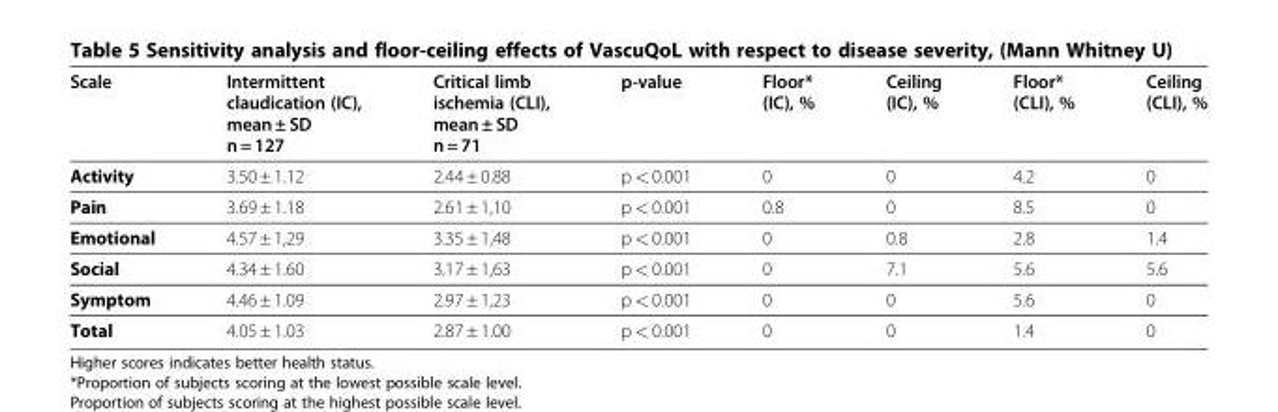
<table><thead><tr><td>Scale</td><td>Intermittent claudication (IC), mean ± SD n = 127</td><td>Critical limb ischemia (CLI), mean ± SD n = 71</td><td>p-value</td><td>Floor* (IC), %</td><td>Ceiling (IC), %</td><td>Floor* (CLI), %</td><td>Ceiling (CLI), %</td></tr></thead><tbody><tr><td>Activity</td><td>3.50 ± 1.12</td><td>2.44 ± 0.88</td><td>p &lt; 0.001</td><td>0</td><td>0</td><td>4.2</td><td>0</td></tr><tr><td>Pain</td><td>3.69 ± 1.18</td><td>2.61 ± 1,10</td><td>p &lt; 0.001</td><td>0.8</td><td>0</td><td>8.5</td><td>0</td></tr><tr><td>Emotional</td><td>4.57 ± 1,29</td><td>3.35 ± 1,48</td><td>p &lt; 0.001</td><td>0</td><td>0.8</td><td>2.8</td><td>1.4</td></tr><tr><td>Social</td><td>4.34 ± 1.60</td><td>3.17 ± 1,63</td><td>p &lt; 0.001</td><td>0</td><td>7.1</td><td>5.6</td><td>5.6</td></tr><tr><td>Symptom</td><td>4.46 ± 1.09</td><td>2.97 ± 1,23</td><td>p &lt; 0.001</td><td>0</td><td>0</td><td>5.6</td><td>0</td></tr><tr><td>Total</td><td>4.05 ± 1.03</td><td>2.87 ± 1.00</td><td>p &lt; 0.001</td><td>0</td><td>0</td><td>1.4</td><td>0</td></tr></tbody></table>